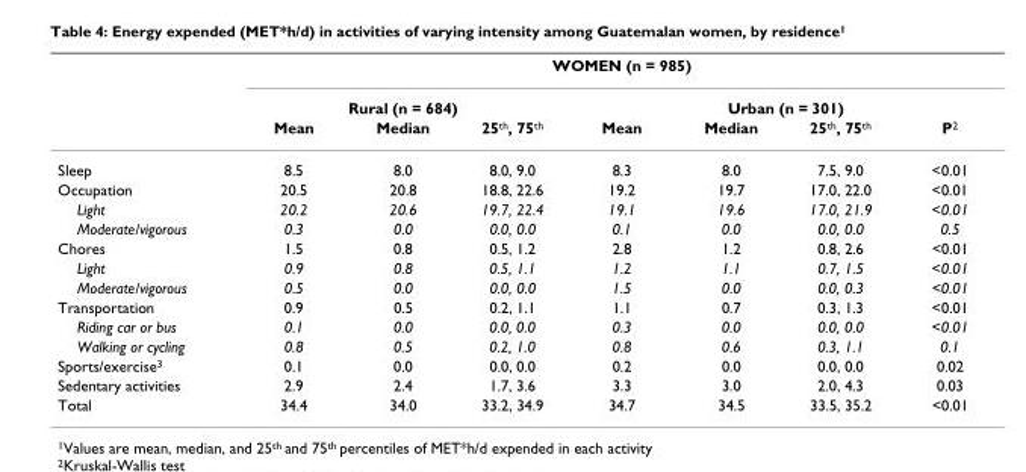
<table><thead><tr><td rowspan="3"></td><td colspan="7">WOMEN (n = 985)</td></tr><tr><td colspan="3">Rural (n = 684)</td><td colspan="4">Urban (n = 301)</td></tr><tr><td>Mean</td><td>Median</td><td>25<sup>th</sup>, 75<sup>th</sup></td><td>Mean</td><td>Median</td><td>25<sup>th</sup>, 75<sup>th</sup></td><td>P<sup>2</sup></td></tr></thead><tbody><tr><td>Sleep</td><td>8.5</td><td>8.0</td><td>8.0, 9.0</td><td>8.3</td><td>8.0</td><td>7.5, 9.0</td><td>&lt;0.01</td></tr><tr><td>Occupation</td><td>20.5</td><td>20.8</td><td>18.8, 22.6</td><td>19.2</td><td>19.7</td><td>17.0, 22.0</td><td>&lt;0.01</td></tr><tr><td>Light</td><td>20.2</td><td>20.6</td><td>19.7, 22.4</td><td>19.1</td><td>19.6</td><td>17.0, 21.9</td><td>&lt;0.01</td></tr><tr><td>Moderate/vigorous</td><td>0.3</td><td>0.0</td><td>0.0, 0.0</td><td>0.1</td><td>0.0</td><td>0.0, 0.0</td><td>0.5</td></tr><tr><td>Chores</td><td>1.5</td><td>0.8</td><td>0.5, 1.2</td><td>2.8</td><td>1.2</td><td>0.8, 2.6</td><td>&lt;0.01</td></tr><tr><td>Light</td><td>0.9</td><td>0.8</td><td>0.5, 1.1</td><td>1.2</td><td>1.1</td><td>0.7, 1.5</td><td>&lt;0.01</td></tr><tr><td>Moderate/vigorous</td><td>0.5</td><td>0.0</td><td>0.0, 0.0</td><td>1.5</td><td>0.0</td><td>0.0, 0.3</td><td>&lt;0.01</td></tr><tr><td>Transportation</td><td>0.9</td><td>0.5</td><td>0.2, 1.1</td><td>1.1</td><td>0.7</td><td>0.3, 1.3</td><td>&lt;0.01</td></tr><tr><td>Riding car or bus</td><td>0.1</td><td>0.0</td><td>0.0, 0.0</td><td>0.3</td><td>0.0</td><td>0.0, 0.0</td><td>&lt;0.01</td></tr><tr><td>Walking or cycling</td><td>0.8</td><td>0.5</td><td>0.2, 1.0</td><td>0.8</td><td>0.6</td><td>0.3, 1.1</td><td>0.1</td></tr><tr><td>Sports/exercise<sup>3</sup></td><td>0.1</td><td>0.0</td><td>0.0, 0.0</td><td>0.2</td><td>0.0</td><td>0.0, 0.0</td><td>0.02</td></tr><tr><td>Sedentary activities</td><td>2.9</td><td>2.4</td><td>1.7, 3.6</td><td>3.3</td><td>3.0</td><td>2.0, 4.3</td><td>0.03</td></tr><tr><td>Total</td><td>34.4</td><td>34.0</td><td>33.2, 34.9</td><td>34.7</td><td>34.5</td><td>33.5, 35.2</td><td>&lt;0.01</td></tr></tbody></table>